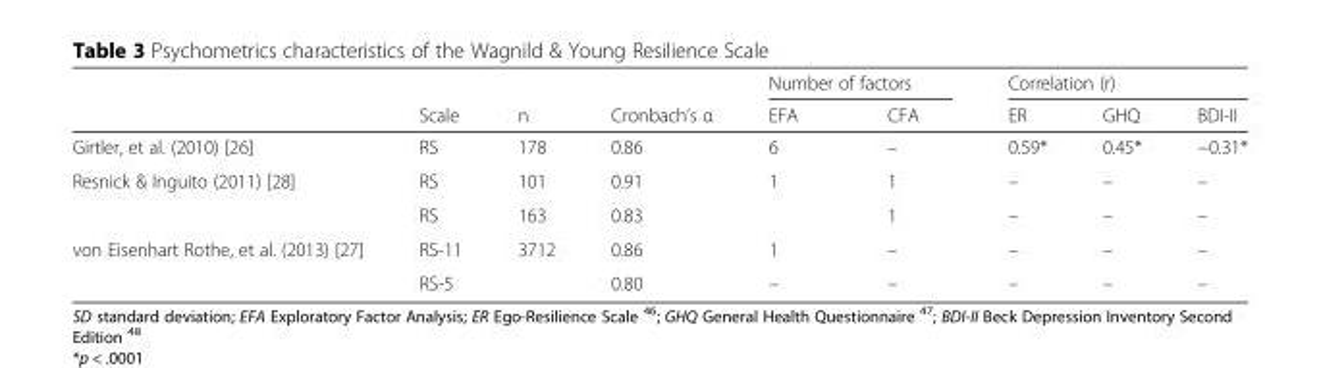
<table><thead><tr><td rowspan="2"></td><td rowspan="2">Scale</td><td rowspan="2">n</td><td rowspan="2">Cronbach’s α</td><td colspan="2">Number of factors</td><td colspan="3">Correlation (r)</td></tr><tr><td>EFA</td><td>CFA</td><td>ER</td><td>GHQ</td><td>BDI-II</td></tr></thead><tbody><tr><td>Girtler, et al. (2010) [26]</td><td>RS</td><td>178</td><td>0.86</td><td>6</td><td>–</td><td>0.59*</td><td>0.45*</td><td>−0.31*</td></tr><tr><td rowspan="2">Resnick &amp; Inguito (2011) [28]</td><td>RS</td><td>101</td><td>0.91</td><td rowspan="2">1</td><td>1</td><td>–</td><td>–</td><td>–</td></tr><tr><td>RS</td><td>163</td><td>0.83</td><td>1</td><td>–</td><td>–</td><td>–</td></tr><tr><td rowspan="2">von Eisenhart Rothe, et al. (2013) [27]</td><td>RS-11</td><td>3712</td><td>0.86</td><td>1</td><td>–</td><td>–</td><td>–</td><td>–</td></tr><tr><td>RS-5</td><td></td><td>0.80</td><td>–</td><td>–</td><td>–</td><td>–</td><td>–</td></tr></tbody></table>